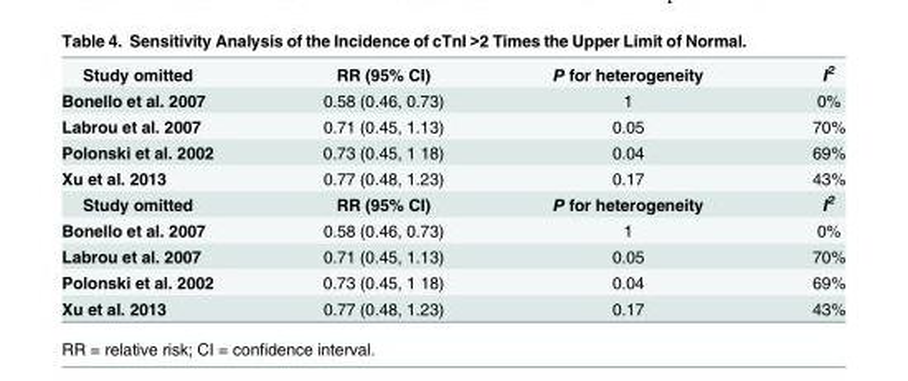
<table><tbody><tr><td>Study omitted</td><td>RR (95% CI)</td><td>P for heterogeneity</td><td>I<sup>2</sup></td></tr><tr><td>Bonello et al. 2007</td><td>0.58 (0.46, 0.73)</td><td>1</td><td>0%</td></tr><tr><td>Labrou et al. 2007</td><td>0.71 (0.45, 1.13)</td><td>0.05</td><td>70%</td></tr><tr><td>Polonski et al. 2002</td><td>0.73 (0.45, 1 18)</td><td>0.04</td><td>69%</td></tr><tr><td>Xu et al. 2013</td><td>0.77 (0.48, 1.23)</td><td>0.17</td><td>43%</td></tr><tr><td>Study omitted</td><td>RR (95% CI)</td><td>P for heterogeneity</td><td>I<sup>2</sup></td></tr><tr><td>Bonello et al. 2007</td><td>0.58 (0.46, 0.73)</td><td>1</td><td>0%</td></tr><tr><td>Labrou et al. 2007</td><td>0.71 (0.45, 1.13)</td><td>0.05</td><td>70%</td></tr><tr><td>Polonski et al. 2002</td><td>0.73 (0.45, 1 18)</td><td>0.04</td><td>69%</td></tr><tr><td>Xu et al. 2013</td><td>0.77 (0.48, 1.23)</td><td>0.17</td><td>43%</td></tr></tbody></table>